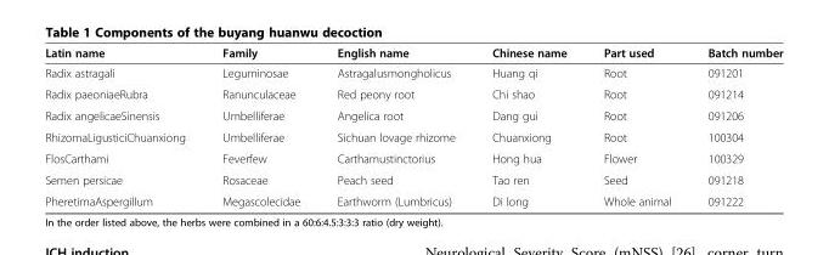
<table><thead><tr><td>Latin name</td><td>Family</td><td>English name</td><td>Chinese name</td><td>Part used</td><td>Batch number</td></tr></thead><tbody><tr><td>Radix astragali</td><td>Leguminosae</td><td>Astragalusmongholicus</td><td>Huang qi</td><td>Root</td><td>091201</td></tr><tr><td>Radix paeoniaeRubra</td><td>Ranunculaceae</td><td>Red peony root</td><td>Chi shao</td><td>Root</td><td>091214</td></tr><tr><td>Radix angelicaeSinensis</td><td>Umbelliferae</td><td>Angelica root</td><td>Dang gui</td><td>Root</td><td>091206</td></tr><tr><td>RhizomaLigusticiChuanxiong</td><td>Umbelliferae</td><td>Sichuan lovage rhizome</td><td>Chuanxiong</td><td>Root</td><td>100304</td></tr><tr><td>FlosCarthami</td><td>Feverfew</td><td>Carthamustinctorius</td><td>Hong hua</td><td>Flower</td><td>100329</td></tr><tr><td>Semen persicae</td><td>Rosaceae</td><td>Peach seed</td><td>Tao ren</td><td>Seed</td><td>091218</td></tr><tr><td>PheretimaAspergillum</td><td>Megascolecidae</td><td>Earthworm (Lumbricus)</td><td>Di long</td><td>Whole animal</td><td>091222</td></tr></tbody></table>